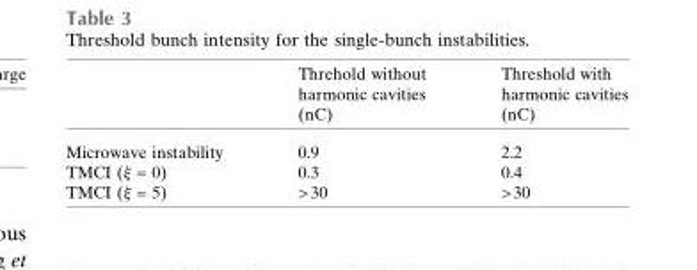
<table><thead><tr><td></td><td>Threhold without harmonic cavities (nC)</td><td>Threshold with harmonic cavities (nC)</td></tr></thead><tbody><tr><td>Microwave instability</td><td>0.9</td><td>2.2</td></tr><tr><td>TMCI (ξ = 0)</td><td>0.3</td><td>0.4</td></tr><tr><td>TMCI (ξ = 5)</td><td>&gt;30</td><td>&gt;30</td></tr></tbody></table>